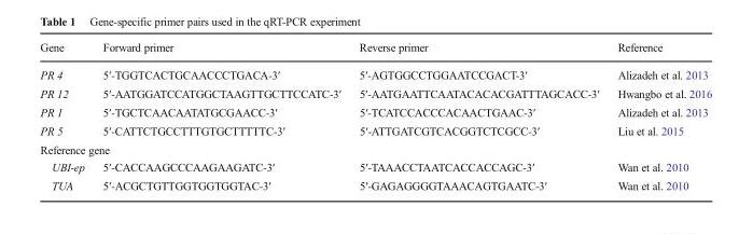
<table><thead><tr><td>Gene</td><td>Forward primer</td><td>Reverse primer</td><td>Reference</td></tr></thead><tbody><tr><td>PR 4</td><td>5′-TGGTCACTGCAACCCTGACA-3′</td><td>5′-AGTGGCCTGGAATCCGACT-3′</td><td>Alizadeh et al. 2013</td></tr><tr><td>PR 12</td><td>5′-AATGGATCCATGGCTAAGTTGCTTCCATC-3′</td><td>5′-AATGAATTCAATACACACGATTTAGCACC-3′</td><td>Hwangbo et al. 2016</td></tr><tr><td>PR 1</td><td>5′-TGCTCAACAATATGCGAACC-3′</td><td>5′-TCATCCACCCACAACTGAAC-3′</td><td>Alizadeh et al. 2013</td></tr><tr><td>PR 5</td><td>5′-CATTCTGCCTTTGTGCTTTTTC-3′</td><td>5′-ATTGATCGTCACGGTCTCGCC-3′</td><td>Liu et al. 2015</td></tr><tr><td colspan="4">Reference gene</td></tr><tr><td>UBI-ep</td><td>5′-CACCAAGCCCAAGAAGATC-3′</td><td>5′-TAAACCTAATCACCACCAGC-3′</td><td>Wan et al. 2010</td></tr><tr><td>TUA</td><td>5′-ACGCTGTTGGTGGTGGTAC-3′</td><td>5′-GAGAGGGGTAAACAGTGAATC-3′</td><td>Wan et al. 2010</td></tr></tbody></table>